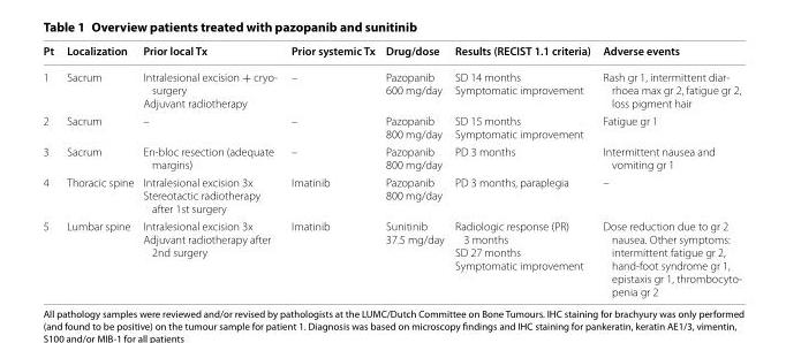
<table><thead><tr><td>Pt</td><td>Localization</td><td>Prior local Tx</td><td>Prior systemic Tx</td><td>Drug/dose</td><td>Results (RECIST 1.1 criteria)</td><td>Adverse events</td></tr></thead><tbody><tr><td>1</td><td>Sacrum</td><td>Intralesional excision + cryo- surgery Adjuvant radiotherapy</td><td>–</td><td>Pazopanib 600 mg/day</td><td>SD 14 months Symptomatic improvement</td><td>Rash gr 1, intermittent diar- rhoea max gr 2, fatigue gr 2, loss pigment hair</td></tr><tr><td>2</td><td>Sacrum</td><td>–</td><td>–</td><td>Pazopanib 800 mg/day</td><td>SD 15 months Symptomatic improvement</td><td>Fatigue gr 1</td></tr><tr><td>3</td><td>Sacrum</td><td>En-bloc resection (adequate margins)</td><td>–</td><td>Pazopanib 800 mg/day</td><td>PD 3 months</td><td>Intermittent nausea and vomiting gr 1</td></tr><tr><td>4</td><td>Thoracic spine</td><td>Intralesional excision 3x Stereotactic radiotherapy after 1st surgery</td><td>Imatinib</td><td>Pazopanib 800 mg/day</td><td>PD 3 months, paraplegia</td><td>–</td></tr><tr><td>5</td><td>Lumbar spine</td><td>Intralesional excision 3x Adjuvant radiotherapy after 2nd surgery</td><td>Imatinib</td><td>Sunitinib 37.5 mg/day</td><td>Radiologic response (PR) 3 months SD 27 months Symptomatic improvement</td><td>Dose reduction due to gr 2 nausea. Other symptoms: intermittent fatigue gr 2, hand-foot syndrome gr 1, epistaxis gr 1, thrombocyto- penia gr 2</td></tr></tbody></table>